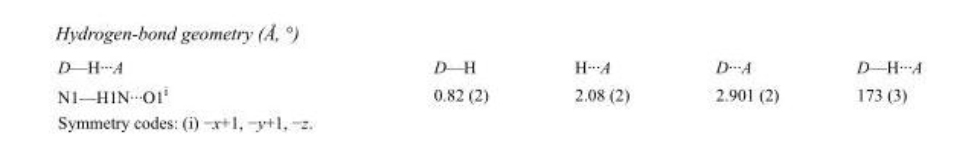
<table><tbody><tr><td>D—H···A</td><td>D—H</td><td>H···A</td><td>D···A</td><td>D—H···A</td></tr><tr><td>N1—H1N···O1<sup>i</sup></td><td>0.82 (2)</td><td>2.08 (2)</td><td>2.901 (2)</td><td>173 (3)</td></tr></tbody></table>